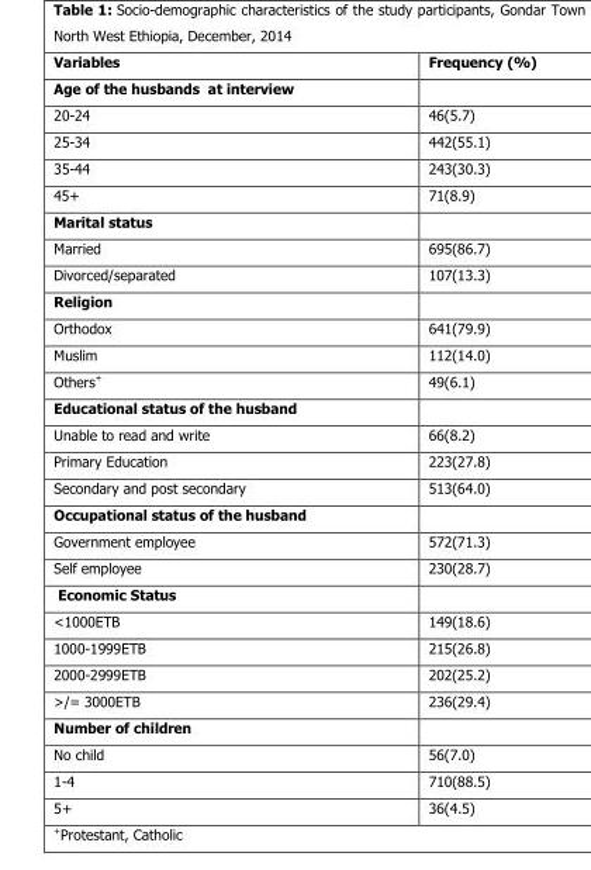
<table><thead><tr><td>Variables</td><td>Frequency (%)</td></tr></thead><tbody><tr><td colspan="2">Age of the husbands at interview</td></tr><tr><td>20-24</td><td>46(5.7)</td></tr><tr><td>25-34</td><td>442(55.1)</td></tr><tr><td>35-44</td><td>243(30.3)</td></tr><tr><td>45<sup>+</sup></td><td>71(8.9)</td></tr><tr><td colspan="2">Marital status</td></tr><tr><td>Married</td><td>695(86.7)</td></tr><tr><td>Divorced/separated</td><td>107(13.3)</td></tr><tr><td colspan="2">Religion</td></tr><tr><td>Orthodox</td><td>641(79.9)</td></tr><tr><td>Muslim</td><td>112(14.0)</td></tr><tr><td>Others<sup>+</sup></td><td>49(6.1)</td></tr><tr><td colspan="2">Educational status of the husband</td></tr><tr><td>Unable to read and write</td><td>66(8.2)</td></tr><tr><td>Primary Education</td><td>223(27.8)</td></tr><tr><td>Secondary and post secondary</td><td>513(64.0)</td></tr><tr><td colspan="2">Occupational status of the husband</td></tr><tr><td>Government employee</td><td>572(71.3)</td></tr><tr><td>Self employee</td><td>230(28.7)</td></tr><tr><td colspan="2">Economic Status</td></tr><tr><td>&lt;1000ETB</td><td>149(18.6)</td></tr><tr><td>1000-1999ETB</td><td>215(26.8)</td></tr><tr><td>2000-2999ETB</td><td>202(25.2)</td></tr><tr><td>&gt;/= 3000ETB</td><td>236(29.4)</td></tr><tr><td colspan="2">Number of children</td></tr><tr><td>No child</td><td>56(7.0)</td></tr><tr><td>1-4</td><td>710(88.5)</td></tr><tr><td>5<sup>+</sup></td><td>36(4.5)</td></tr></tbody></table>